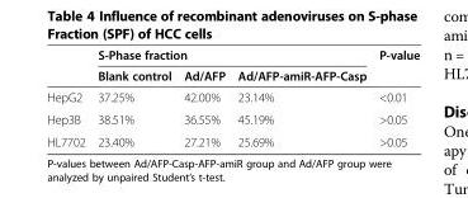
<table><thead><tr><td rowspan="2"></td><td colspan="3">S-Phase fraction</td><td rowspan="2">P-value</td></tr><tr><td>Blank control</td><td>Ad/AFP</td><td>Ad/AFP-amiR-AFP-Casp</td></tr></thead><tbody><tr><td>HepG2</td><td>37.25%</td><td>42.00%</td><td>23.14%</td><td>&lt;0.01</td></tr><tr><td>Hep3B</td><td>38.51%</td><td>36.55%</td><td>45.19%</td><td>&gt;0.05</td></tr><tr><td>HL7702</td><td>23.40%</td><td>27.21%</td><td>25.69%</td><td>&gt;0.05</td></tr></tbody></table>